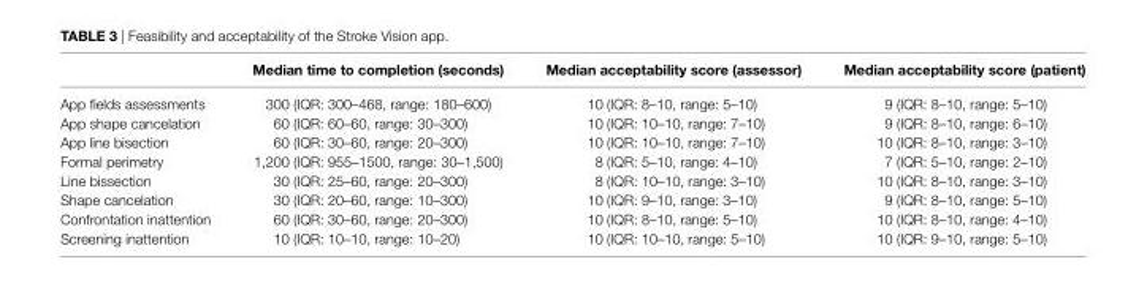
<table><thead><tr><td></td><td>Median time to completion (seconds)</td><td>Median acceptability score (assessor)</td><td>Median acceptability score (patient)</td></tr></thead><tbody><tr><td>App fields assessments</td><td>300 (IQR: 300–468, range: 180–600)</td><td>10 (IQR: 8–10, range: 5–10)</td><td>9 (IQR: 8–10, range: 5–10)</td></tr><tr><td>App shape cancelation</td><td>60 (IQR: 60–60, range: 30–300)</td><td>10 (IQR: 10–10, range: 7–10)</td><td>9 (IQR: 8–10, range: 6–10)</td></tr><tr><td>App line bisection</td><td>60 (IQR: 30–60, range: 20–300)</td><td>10 (IQR: 10–10, range: 7–10)</td><td>10 (IQR: 8–10, range: 3–10)</td></tr><tr><td>Formal perimetry</td><td>1,200 (IQR: 955–1500, range: 30–1,500)</td><td>8 (IQR: 5–10, range: 4–10)</td><td>7 (IQR: 5–10, range: 2–10)</td></tr><tr><td>Line bissection</td><td>30 (IQR: 25–60, range: 20–300)</td><td>8 (IQR: 10–10, range: 3–10)</td><td>10 (IQR: 8–10, range: 3–10)</td></tr><tr><td>Shape cancelation</td><td>30 (IQR: 20–60, range: 10–300)</td><td>10 (IQR: 9–10, range: 3–10)</td><td>9 (IQR: 8–10, range: 5–10)</td></tr><tr><td>Confrontation inattention</td><td>60 (IQR: 30–60, range: 20–300)</td><td>10 (IQR: 8–10, range: 5–10)</td><td>10 (IQR: 8–10, range: 4–10)</td></tr><tr><td>Screening inattention</td><td>10 (IQR: 10–10, range: 10–20)</td><td>10 (IQR: 10–10, range: 5–10)</td><td>10 (IQR: 9–10, range: 5–10)</td></tr></tbody></table>